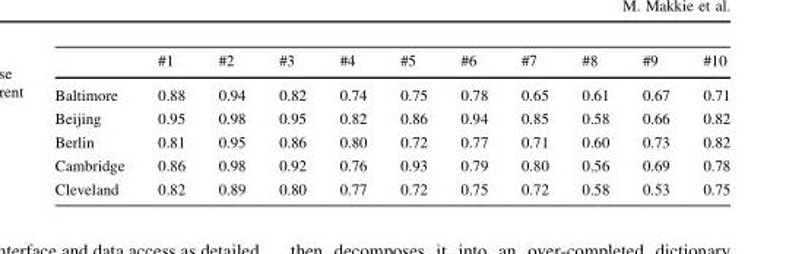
<table><thead><tr><td></td><td>#1</td><td>#2</td><td>#3</td><td>#4</td><td>#5</td><td>#6</td><td>#7</td><td>#8</td><td>#9</td><td>#10</td></tr></thead><tbody><tr><td>Baltimore</td><td>0.88</td><td>0.94</td><td>0.82</td><td>0.74</td><td>0.75</td><td>0.78</td><td>0.65</td><td>0.61</td><td>0.67</td><td>0.71</td></tr><tr><td>Beijing</td><td>0.95</td><td>0.98</td><td>0.95</td><td>0.82</td><td>0.86</td><td>0.94</td><td>0.85</td><td>0.58</td><td>0.66</td><td>0.82</td></tr><tr><td>Berlin</td><td>0.81</td><td>0.95</td><td>0.86</td><td>0.80</td><td>0.72</td><td>0.77</td><td>0.71</td><td>0.60</td><td>0.73</td><td>0.82</td></tr><tr><td>Cambridge</td><td>0.86</td><td>0.98</td><td>0.92</td><td>0.76</td><td>0.93</td><td>0.79</td><td>0.80</td><td>0.56</td><td>0.69</td><td>0.78</td></tr><tr><td>Cleveland</td><td>0.82</td><td>0.89</td><td>0.80</td><td>0.77</td><td>0.72</td><td>0.75</td><td>0.72</td><td>0.58</td><td>0.53</td><td>0.75</td></tr></tbody></table>